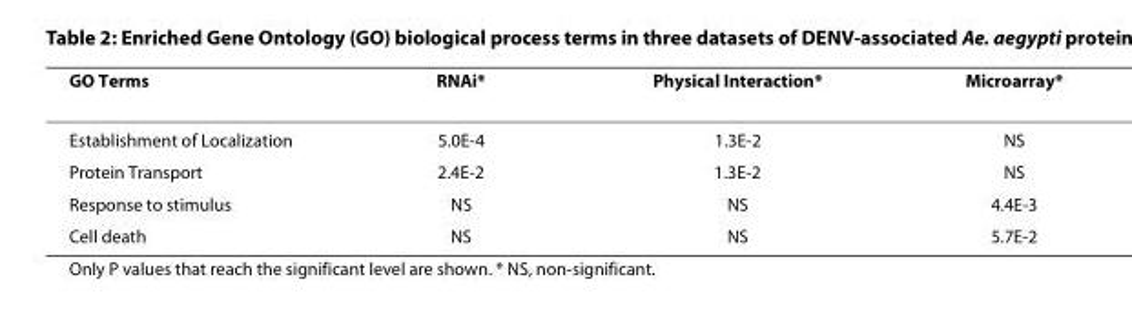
<table><thead><tr><td>GO Terms</td><td>RNAi*</td><td>Physical Interaction*</td><td>Microarray*</td></tr></thead><tbody><tr><td>Establishment of Localization</td><td>5.0E-4</td><td>1.3E-2</td><td>NS</td></tr><tr><td>Protein Transport</td><td>2.4E-2</td><td>1.3E-2</td><td>NS</td></tr><tr><td>Response to stimulus</td><td>NS</td><td>NS</td><td>4.4E-3</td></tr><tr><td>Cell death</td><td>NS</td><td>NS</td><td>5.7E-2</td></tr></tbody></table>